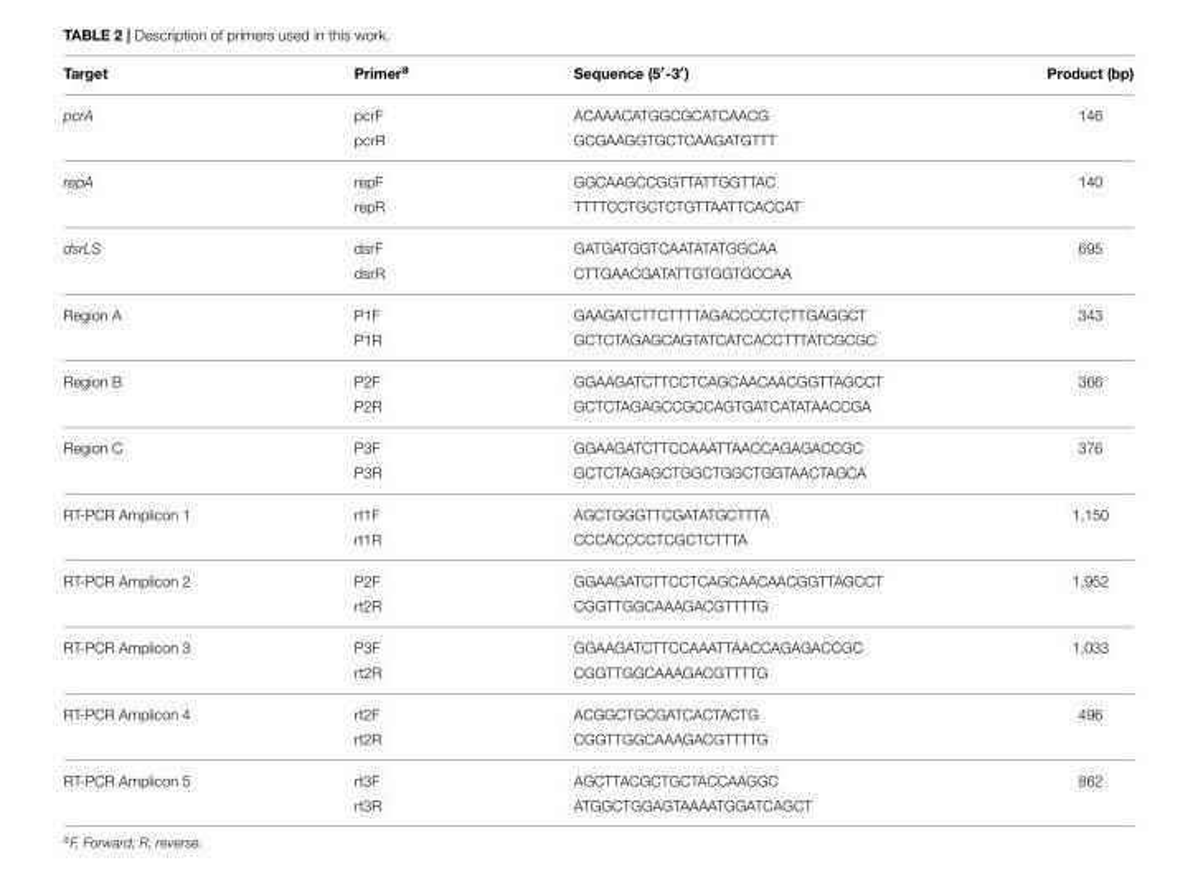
<table><thead><tr><td>Target</td><td>Primer<sup>a</sup></td><td>Sequence (5′-3′)</td><td>Product (bp)</td></tr></thead><tbody><tr><td rowspan="2">pcrA</td><td>pcrF</td><td>ACAAACATGGCGCATCAACG</td><td>146</td></tr><tr><td>pcrR</td><td>GCGAAGGTGCTCAAGATGTTT</td><td></td></tr><tr><td rowspan="2">repA</td><td>repF</td><td>GGCAAGCCGGTTATTGGTTAC</td><td>140</td></tr><tr><td>repR</td><td>TTTTCCTGCTCTGTTAATTCACCAT</td><td></td></tr><tr><td rowspan="2">dsrLS</td><td>dsrF</td><td>GATGATGGTCAATATATGGCAA</td><td>695</td></tr><tr><td>dsrR</td><td>CTTGAACGATATTGTGGTGCCAA</td><td></td></tr><tr><td rowspan="2">Region A</td><td>P1F</td><td>GAAGATCTTCTTTTAGACCCCTCTTGAGGCT</td><td>343</td></tr><tr><td>P1R</td><td>GCTCTAGAGCAGTATCATCACCTTTATCGCGC</td><td></td></tr><tr><td rowspan="2">Region B</td><td>P2F</td><td>GGAAGATCTTCCTCAGCAACAACGGTTAGCCT</td><td>366</td></tr><tr><td>P2R</td><td>GCTCTAGAGCCGCCAGTGATCATATAACCGA</td><td></td></tr><tr><td rowspan="2">Region C</td><td>P3F</td><td>GGAAGATCTTCCAAATTAACCAGAGACCGC</td><td>376</td></tr><tr><td>P3R</td><td>GCTCTAGAGCTGGCTGGCTGGTAACTAGCA</td><td></td></tr><tr><td rowspan="2">RT-PCR Amplicon 1</td><td>rt1F</td><td>AGCTGGGTTCGATATGCTTTA</td><td>1,150</td></tr><tr><td>rt1R</td><td>CCCACCCCTCGCTCTTTA</td><td></td></tr><tr><td rowspan="2">RT-PCR Amplicon 2</td><td>P2F</td><td>GGAAGATCTTCCTCAGCAACAACGGTTAGCCT</td><td>1,952</td></tr><tr><td>rt2R</td><td>CGGTTGGCAAAGACGTTTTG</td><td></td></tr><tr><td rowspan="2">RT-PCR Amplicon 3</td><td>P3F</td><td>GGAAGATCTTCCAAATTAACCAGAGACCGC</td><td>1,033</td></tr><tr><td>rt2R</td><td>CGGTTGGCAAAGACGTTTTG</td><td></td></tr><tr><td rowspan="2">RT-PCR Amplicon 4</td><td>rt2F</td><td>ACGGCTGCGATCACTACTG</td><td>496</td></tr><tr><td>rt2R</td><td>CGGTTGGCAAAGACGTTTTG</td><td></td></tr><tr><td rowspan="2">RT-PCR Amplicon 5</td><td>rt3F</td><td>AGCTTACGCTGCTACCAAGGC</td><td>862</td></tr><tr><td>rt3R</td><td>ATGGCTGGAGTAAAATGGATCAGCT</td><td></td></tr></tbody></table>